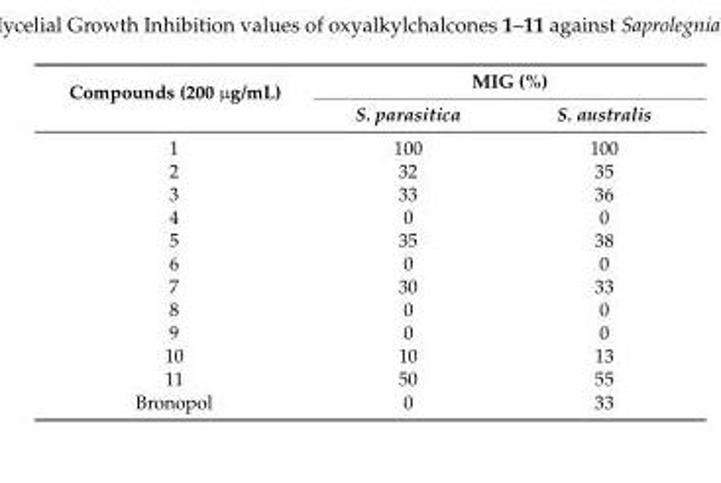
<table><thead><tr><td rowspan="2">Compounds (200 µg/mL)</td><td colspan="2">MIG (%)</td></tr><tr><td>S. parasitica</td><td>S. australis</td></tr></thead><tbody><tr><td>1</td><td>100</td><td>100</td></tr><tr><td>2</td><td>32</td><td>35</td></tr><tr><td>3</td><td>33</td><td>36</td></tr><tr><td>4</td><td>0</td><td>0</td></tr><tr><td>5</td><td>35</td><td>38</td></tr><tr><td>6</td><td>0</td><td>0</td></tr><tr><td>7</td><td>30</td><td>33</td></tr><tr><td>8</td><td>0</td><td>0</td></tr><tr><td>9</td><td>0</td><td>0</td></tr><tr><td>10</td><td>10</td><td>13</td></tr><tr><td>11</td><td>50</td><td>55</td></tr><tr><td>Bronopol</td><td>0</td><td>33</td></tr></tbody></table>